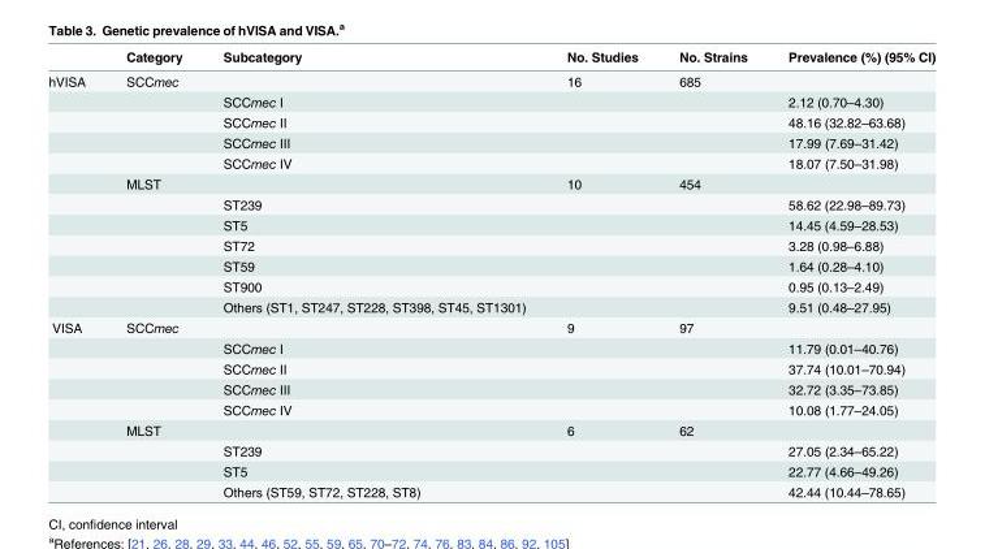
<table><thead><tr><td></td><td>Category</td><td>Subcategory</td><td>No. Studies</td><td>No. Strains</td><td>Prevalence (%) (95% CI)</td></tr></thead><tbody><tr><td rowspan="12">hVISA</td><td>SCCmec</td><td></td><td>16</td><td>685</td><td></td></tr><tr><td></td><td>SCCmec I</td><td></td><td></td><td>2.12 (0.70–4.30)</td></tr><tr><td></td><td>SCCmec II</td><td></td><td></td><td>48.16 (32.82–63.68)</td></tr><tr><td></td><td>SCCmec III</td><td></td><td></td><td>17.99 (7.69–31.42)</td></tr><tr><td></td><td>SCCmec IV</td><td></td><td></td><td>18.07 (7.50–31.98)</td></tr><tr><td>MLST</td><td></td><td>10</td><td>454</td><td></td></tr><tr><td></td><td>ST239</td><td></td><td></td><td>58.62 (22.98–89.73)</td></tr><tr><td></td><td>ST5</td><td></td><td></td><td>14.45 (4.59–28.53)</td></tr><tr><td></td><td>ST72</td><td></td><td></td><td>3.28 (0.98–6.88)</td></tr><tr><td></td><td>ST59</td><td></td><td></td><td>1.64 (0.28–4.10)</td></tr><tr><td></td><td>ST900</td><td></td><td></td><td>0.95 (0.13–2.49)</td></tr><tr><td></td><td>Others (ST1, ST247, ST228, ST398, ST45, ST1301)</td><td></td><td></td><td>9.51 (0.48–27.95)</td></tr><tr><td rowspan="9">VISA</td><td>SCCmec</td><td></td><td>9</td><td>97</td><td></td></tr><tr><td></td><td>SCCmec I</td><td></td><td></td><td>11.79 (0.01–40.76)</td></tr><tr><td></td><td>SCCmec II</td><td></td><td></td><td>37.74 (10.01–70.94)</td></tr><tr><td></td><td>SCCmec III</td><td></td><td></td><td>32.72 (3.35–73.85)</td></tr><tr><td></td><td>SCCmec IV</td><td></td><td></td><td>10.08 (1.77–24.05)</td></tr><tr><td>MLST</td><td></td><td>6</td><td>62</td><td></td></tr><tr><td></td><td>ST239</td><td></td><td></td><td>27.05 (2.34–65.22)</td></tr><tr><td></td><td>ST5</td><td></td><td></td><td>22.77 (4.66–49.26)</td></tr><tr><td></td><td>Others (ST59, ST72, ST228, ST8)</td><td></td><td></td><td>42.44 (10.44–78.65)</td></tr></tbody></table>